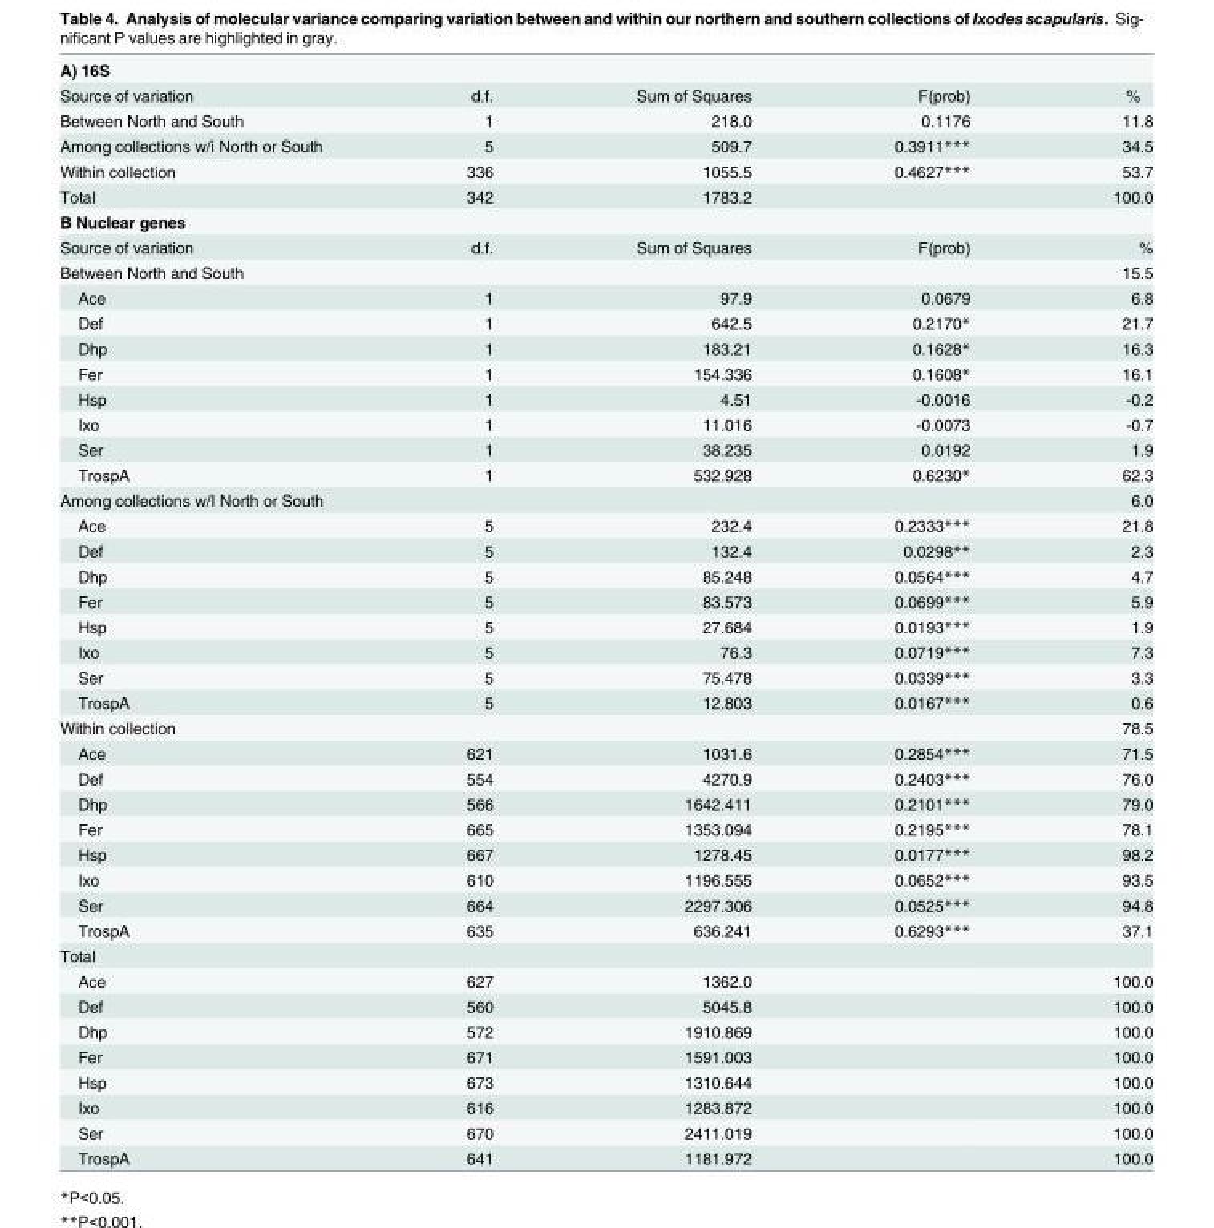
<table><tbody><tr><td colspan="5">A) 16S</td></tr><tr><td>Source of variation</td><td>d.f.</td><td>Sum of Squares</td><td>F(prob)</td><td>%</td></tr><tr><td>Between North and South</td><td>1</td><td>218.0</td><td>0.1176</td><td>11.8</td></tr><tr><td>Among collections w/i North or South</td><td>5</td><td>509.7</td><td>0.3911***</td><td>34.5</td></tr><tr><td>Within collection</td><td>336</td><td>1055.5</td><td>0.4627***</td><td>53.7</td></tr><tr><td>Total</td><td>342</td><td>1783.2</td><td></td><td>100.0</td></tr><tr><td colspan="5">B Nuclear genes</td></tr><tr><td>Source of variation</td><td>d.f.</td><td>Sum of Squares</td><td>F(prob)</td><td>%</td></tr><tr><td>Between North and South</td><td></td><td></td><td></td><td>15.5</td></tr><tr><td>Ace</td><td>1</td><td>97.9</td><td>0.0679</td><td>6.8</td></tr><tr><td>Def</td><td>1</td><td>642.5</td><td>0.2170*</td><td>21.7</td></tr><tr><td>Dhp</td><td>1</td><td>183.21</td><td>0.1628*</td><td>16.3</td></tr><tr><td>Fer</td><td>1</td><td>154.336</td><td>0.1608*</td><td>16.1</td></tr><tr><td>Hsp</td><td>1</td><td>4.51</td><td>-0.0016</td><td>-0.2</td></tr><tr><td>Ixo</td><td>1</td><td>11.016</td><td>-0.0073</td><td>-0.7</td></tr><tr><td>Ser</td><td>1</td><td>38.235</td><td>0.0192</td><td>1.9</td></tr><tr><td>TrospA</td><td>1</td><td>532.928</td><td>0.6230*</td><td>62.3</td></tr><tr><td>Among collections w/I North or South</td><td></td><td></td><td></td><td>6.0</td></tr><tr><td>Ace</td><td>5</td><td>232.4</td><td>0.2333***</td><td>21.8</td></tr><tr><td>Def</td><td>5</td><td>132.4</td><td>0.0298**</td><td>2.3</td></tr><tr><td>Dhp</td><td>5</td><td>85.248</td><td>0.0564***</td><td>4.7</td></tr><tr><td>Fer</td><td>5</td><td>83.573</td><td>0.0699***</td><td>5.9</td></tr><tr><td>Hsp</td><td>5</td><td>27.684</td><td>0.0193***</td><td>1.9</td></tr><tr><td>Ixo</td><td>5</td><td>76.3</td><td>0.0719***</td><td>7.3</td></tr><tr><td>Ser</td><td>5</td><td>75.478</td><td>0.0339***</td><td>3.3</td></tr><tr><td>TrospA</td><td>5</td><td>12.803</td><td>0.0167***</td><td>0.6</td></tr><tr><td>Within collection</td><td></td><td></td><td></td><td>78.5</td></tr><tr><td>Ace</td><td>621</td><td>1031.6</td><td>0.2854***</td><td>71.5</td></tr><tr><td>Def</td><td>554</td><td>4270.9</td><td>0.2403***</td><td>76.0</td></tr><tr><td>Dhp</td><td>566</td><td>1642.411</td><td>0.2101***</td><td>79.0</td></tr><tr><td>Fer</td><td>665</td><td>1353.094</td><td>0.2195***</td><td>78.1</td></tr><tr><td>Hsp</td><td>667</td><td>1278.45</td><td>0.0177***</td><td>98.2</td></tr><tr><td>Ixo</td><td>610</td><td>1196.555</td><td>0.0652***</td><td>93.5</td></tr><tr><td>Ser</td><td>664</td><td>2297.306</td><td>0.0525***</td><td>94.8</td></tr><tr><td>TrospA</td><td>635</td><td>636.241</td><td>0.6293***</td><td>37.1</td></tr><tr><td colspan="5">Total</td></tr><tr><td>Ace</td><td>627</td><td>1362.0</td><td></td><td>100.0</td></tr><tr><td>Def</td><td>560</td><td>5045.8</td><td></td><td>100.0</td></tr><tr><td>Dhp</td><td>572</td><td>1910.869</td><td></td><td>100.0</td></tr><tr><td>Fer</td><td>671</td><td>1591.003</td><td></td><td>100.0</td></tr><tr><td>Hsp</td><td>673</td><td>1310.644</td><td></td><td>100.0</td></tr><tr><td>Ixo</td><td>616</td><td>1283.872</td><td></td><td>100.0</td></tr><tr><td>Ser</td><td>670</td><td>2411.019</td><td></td><td>100.0</td></tr><tr><td>TrospA</td><td>641</td><td>1181.972</td><td></td><td>100.0</td></tr></tbody></table>